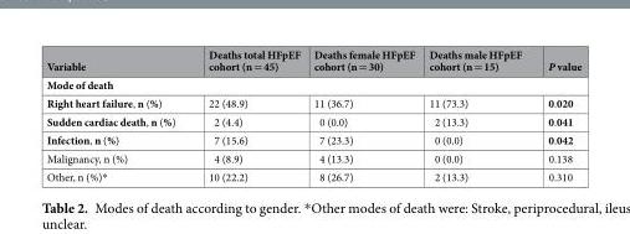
<table><thead><tr><td>Variable</td><td>Deaths total HFpEF cohort (n = 45)</td><td>Deaths female HFpEF cohort (n = 30)</td><td>Deaths male HFpEF cohort (n = 15)</td><td>P value</td></tr></thead><tbody><tr><td colspan="5">Mode of death</td></tr><tr><td>Right heart failure, n (%)</td><td>22 (48.9)</td><td>11 (36.7)</td><td>11 (73.3)</td><td>0.020</td></tr><tr><td>Sudden cardiac death, n (%)</td><td>2 (4.4)</td><td>0 (0.0)</td><td>2 (13.3)</td><td>0.041</td></tr><tr><td>Infection, n (%)</td><td>7 (15.6)</td><td>7 (23.3)</td><td>0 (0.0)</td><td>0.042</td></tr><tr><td>Malignancy, n (%)</td><td>4 (8.9)</td><td>4 (13.3)</td><td>0 (0.0)</td><td>0.138</td></tr><tr><td>Other, n (%)*</td><td>10 (22.2)</td><td>8 (26.7)</td><td>2 (13.3)</td><td>0.310</td></tr></tbody></table>